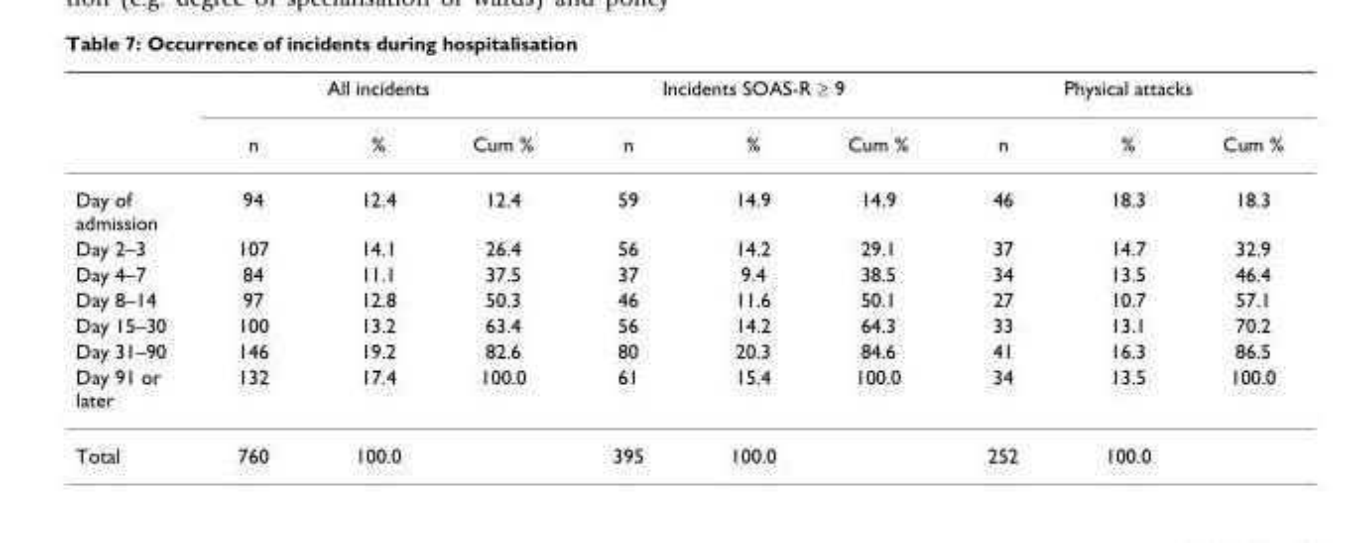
<table><thead><tr><td rowspan="2"></td><td colspan="3">All incidents</td><td colspan="3">Incidents SOAS-R ≥ 9</td><td colspan="3">Physical attacks</td></tr><tr><td>n</td><td>%</td><td>Cum %</td><td>n</td><td>%</td><td>Cum %</td><td>n</td><td>%</td><td>Cum %</td></tr></thead><tbody><tr><td>Day of admission</td><td>94</td><td>12.4</td><td>12.4</td><td>59</td><td>14.9</td><td>14.9</td><td>46</td><td>18.3</td><td>18.3</td></tr><tr><td>Day 2–3</td><td>107</td><td>14.1</td><td>26.4</td><td>56</td><td>14.2</td><td>29.1</td><td>37</td><td>14.7</td><td>32.9</td></tr><tr><td>Day 4–7</td><td>84</td><td>11.1</td><td>37.5</td><td>37</td><td>9.4</td><td>38.5</td><td>34</td><td>13.5</td><td>46.4</td></tr><tr><td>Day 8–14</td><td>97</td><td>12.8</td><td>50.3</td><td>46</td><td>11.6</td><td>50.1</td><td>27</td><td>10.7</td><td>57.1</td></tr><tr><td>Day 15–30</td><td>100</td><td>13.2</td><td>63.4</td><td>56</td><td>14.2</td><td>64.3</td><td>33</td><td>13.1</td><td>70.2</td></tr><tr><td>Day 31–90</td><td>146</td><td>19.2</td><td>82.6</td><td>80</td><td>20.3</td><td>84.6</td><td>41</td><td>16.3</td><td>86.5</td></tr><tr><td>Day 91 or later</td><td>132</td><td>17.4</td><td>100.0</td><td>61</td><td>15.4</td><td>100.0</td><td>34</td><td>13.5</td><td>100.0</td></tr><tr><td>Total</td><td>760</td><td>100.0</td><td></td><td>395</td><td>100.0</td><td></td><td>252</td><td>100.0</td><td></td></tr></tbody></table>